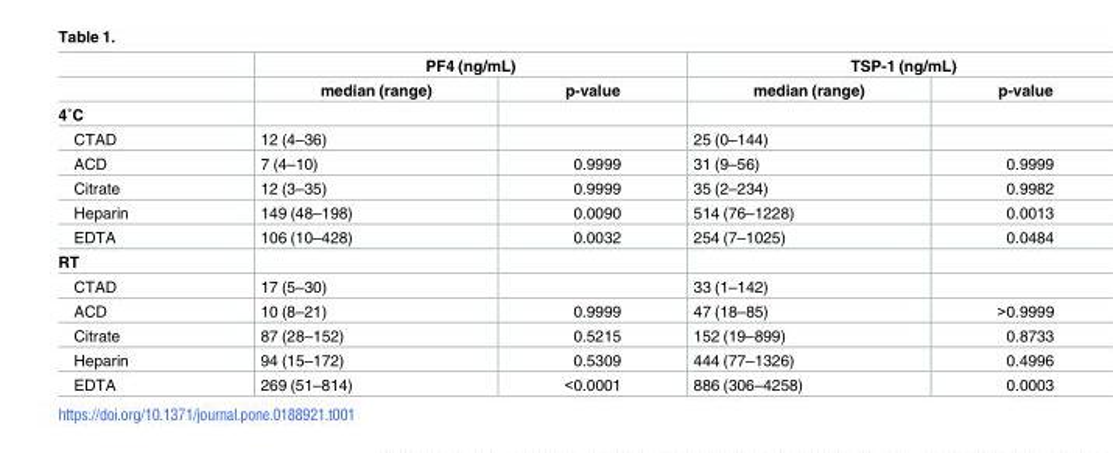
<table><thead><tr><td rowspan="2"></td><td colspan="2">PF4 (ng/mL)</td><td colspan="2">TSP-1 (ng/mL)</td></tr><tr><td>median (range)</td><td>p-value</td><td>median (range)</td><td>p-value</td></tr></thead><tbody><tr><td colspan="5">4˚C</td></tr><tr><td>CTAD</td><td>12 (4–36)</td><td></td><td>25 (0–144)</td><td></td></tr><tr><td>ACD</td><td>7 (4–10)</td><td>0.9999</td><td>31 (9–56)</td><td>0.9999</td></tr><tr><td>Citrate</td><td>12 (3–35)</td><td>0.9999</td><td>35 (2–234)</td><td>0.9982</td></tr><tr><td>Heparin</td><td>149 (48–198)</td><td>0.0090</td><td>514 (76–1228)</td><td>0.0013</td></tr><tr><td>EDTA</td><td>106 (10–428)</td><td>0.0032</td><td>254 (7–1025)</td><td>0.0484</td></tr><tr><td colspan="5">RT</td></tr><tr><td>CTAD</td><td>17 (5–30)</td><td></td><td>33 (1–142)</td><td></td></tr><tr><td>ACD</td><td>10 (8–21)</td><td>0.9999</td><td>47 (18–85)</td><td>&gt;0.9999</td></tr><tr><td>Citrate</td><td>87 (28–152)</td><td>0.5215</td><td>152 (19–899)</td><td>0.8733</td></tr><tr><td>Heparin</td><td>94 (15–172)</td><td>0.5309</td><td>444 (77–1326)</td><td>0.4996</td></tr><tr><td>EDTA</td><td>269 (51–814)</td><td>&lt;0.0001</td><td>886 (306–4258)</td><td>0.0003</td></tr></tbody></table>